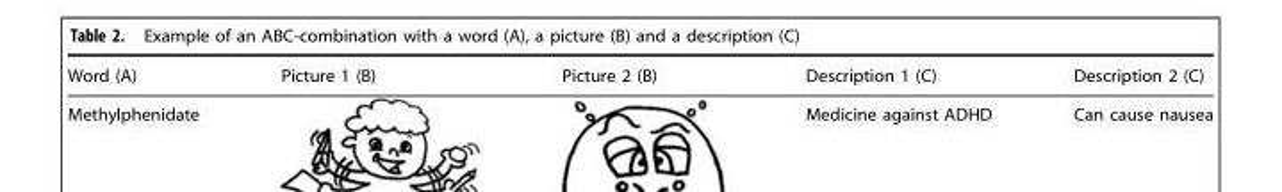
<table><thead><tr><td>Word (A)</td><td>Picture 1 (B)</td><td>Picture 2 (B)</td><td>Description 1 (C)</td><td>Description 2 (C)</td></tr></thead><tbody><tr><td>Methylphenidate</td><td></td><td></td><td>Medicine against ADHD</td><td>Can cause nausea</td></tr></tbody></table>